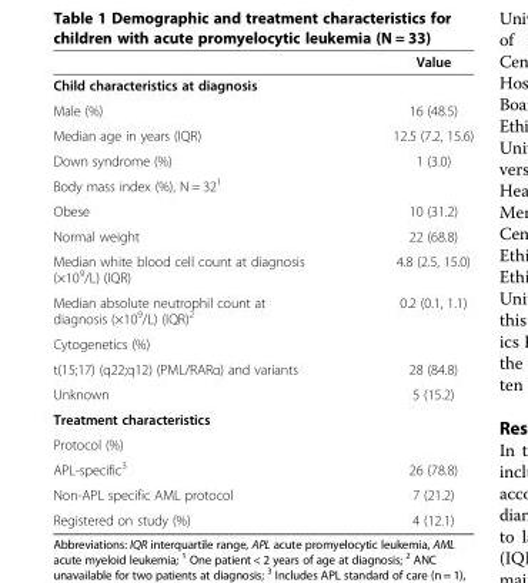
<table><thead><tr><td></td><td>Value</td></tr></thead><tbody><tr><td colspan="2">Child characteristics at diagnosis</td></tr><tr><td>Male (%)</td><td>16 (48.5)</td></tr><tr><td>Median age in years (IQR)</td><td>12.5 (7.2, 15.6)</td></tr><tr><td>Down syndrome (%)</td><td>1 (3.0)</td></tr><tr><td colspan="2">Body mass index (%), N = 32<sup>1</sup></td></tr><tr><td>Obese</td><td>10 (31.2)</td></tr><tr><td>Normal weight</td><td>22 (68.8)</td></tr><tr><td>Median white blood cell count at diagnosis (×10<sup>9</sup>/L) (IQR)</td><td>4.8 (2.5, 15.0)</td></tr><tr><td>Median absolute neutrophil count at diagnosis (×10<sup>9</sup>/L) (IQR)<sup>2</sup></td><td>0.2 (0.1, 1.1)</td></tr><tr><td colspan="2">Cytogenetics (%)</td></tr><tr><td>t(15;17) (q22;q12) (PML/RARα) and variants</td><td>28 (84.8)</td></tr><tr><td>Unknown</td><td>5 (15.2)</td></tr><tr><td colspan="2">Treatment characteristics</td></tr><tr><td colspan="2">Protocol (%)</td></tr><tr><td>APL-specific<sup>3</sup></td><td>26 (78.8)</td></tr><tr><td>Non-APL specific AML protocol</td><td>7 (21.2)</td></tr><tr><td>Registered on study (%)</td><td>4 (12.1)</td></tr></tbody></table>